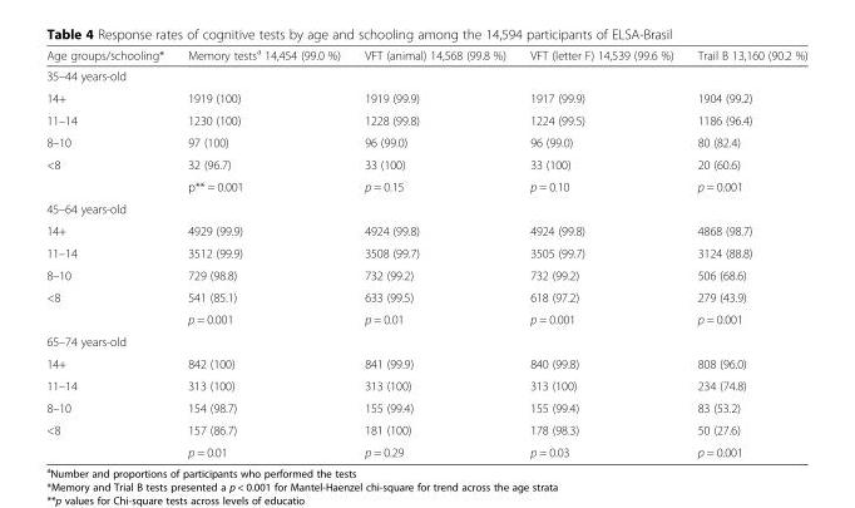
<table><thead><tr><td>Age groups/schooling*</td><td>Memory tests<sup>a</sup> 14,454 (99.0 %)</td><td>VFT (animal) 14,568 (99.8 %)</td><td>VFT (letter F) 14,539 (99.6 %)</td><td>Trail B 13,160 (90.2 %)</td></tr></thead><tbody><tr><td colspan="5">35–44 years-old</td></tr><tr><td>14+</td><td>1919 (100)</td><td>1919 (99.9)</td><td>1917 (99.9)</td><td>1904 (99.2)</td></tr><tr><td>11–14</td><td>1230 (100)</td><td>1228 (99.8)</td><td>1224 (99.5)</td><td>1186 (96.4)</td></tr><tr><td>8–10</td><td>97 (100)</td><td>96 (99.0)</td><td>96 (99.0)</td><td>80 (82.4)</td></tr><tr><td rowspan="2">&lt;8</td><td>32 (96.7)</td><td>33 (100)</td><td>33 (100)</td><td>20 (60.6)</td></tr><tr><td>p** = 0.001</td><td>p = 0.15</td><td>p = 0.10</td><td>p = 0.001</td></tr><tr><td colspan="5">45–64 years-old</td></tr><tr><td>14+</td><td>4929 (99.9)</td><td>4924 (99.8)</td><td>4924 (99.8)</td><td>4868 (98.7)</td></tr><tr><td>11–14</td><td>3512 (99.9)</td><td>3508 (99.7)</td><td>3505 (99.7)</td><td>3124 (88.8)</td></tr><tr><td>8–10</td><td>729 (98.8)</td><td>732 (99.2)</td><td>732 (99.2)</td><td>506 (68.6)</td></tr><tr><td rowspan="2">&lt;8</td><td>541 (85.1)</td><td>633 (99.5)</td><td>618 (97.2)</td><td>279 (43.9)</td></tr><tr><td>p = 0.001</td><td>p = 0.01</td><td>p = 0.001</td><td>p = 0.001</td></tr><tr><td colspan="5">65–74 years-old</td></tr><tr><td>14+</td><td>842 (100)</td><td>841 (99.9)</td><td>840 (99.8)</td><td>808 (96.0)</td></tr><tr><td>11–14</td><td>313 (100)</td><td>313 (100)</td><td>313 (100)</td><td>234 (74.8)</td></tr><tr><td>8–10</td><td>154 (98.7)</td><td>155 (99.4)</td><td>155 (99.4)</td><td>83 (53.2)</td></tr><tr><td rowspan="2">&lt;8</td><td>157 (86.7)</td><td>181 (100)</td><td>178 (98.3)</td><td>50 (27.6)</td></tr><tr><td>p = 0.01</td><td>p = 0.29</td><td>p = 0.03</td><td>p = 0.001</td></tr></tbody></table>